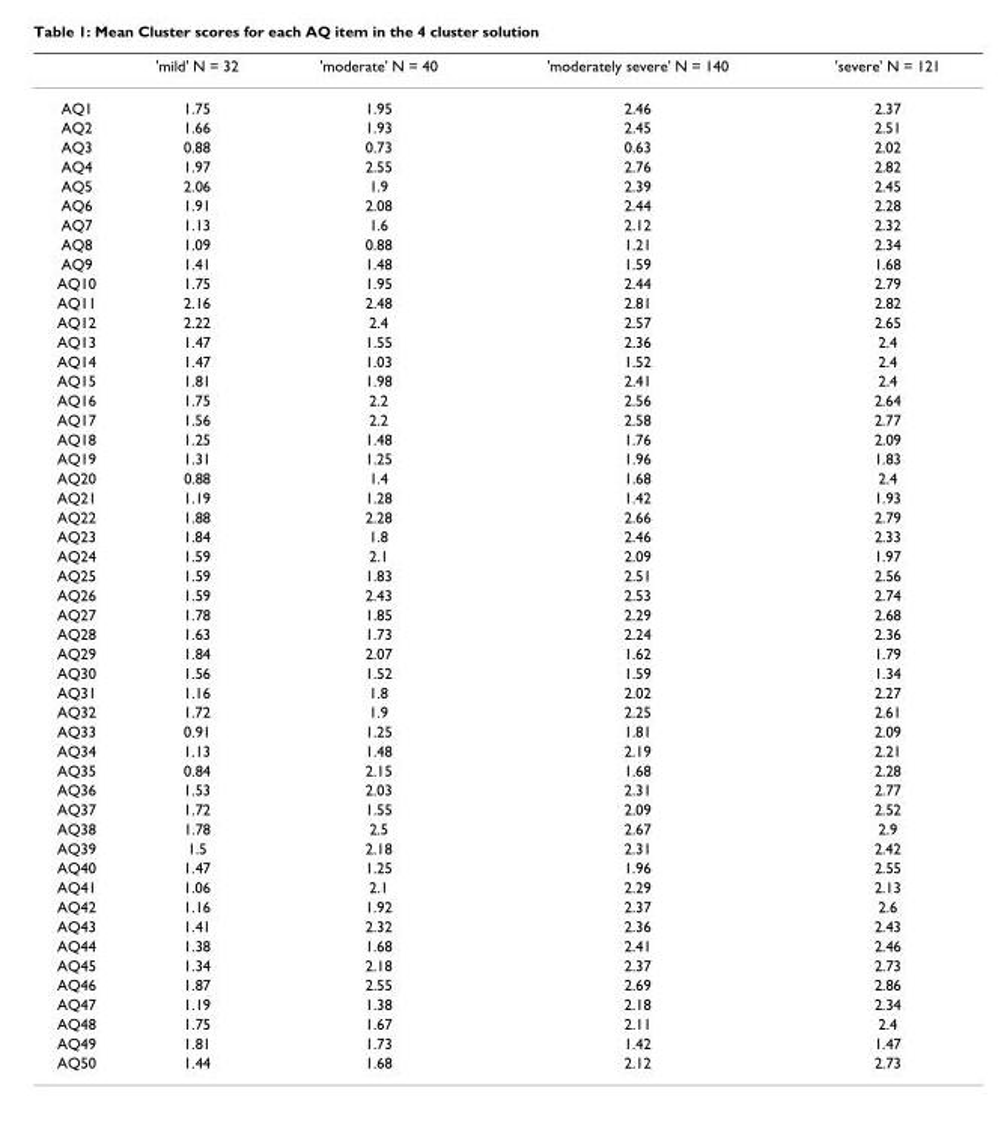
<table><thead><tr><td></td><td>&#x27;mild&#x27; N = 32</td><td>&#x27;moderate&#x27; N = 40</td><td>&#x27;moderately severe&#x27; N = 140</td><td>&#x27;severe&#x27; N = 121</td></tr></thead><tbody><tr><td>AQ1</td><td>1.75</td><td>1.95</td><td>2.46</td><td>2.37</td></tr><tr><td>AQ2</td><td>1.66</td><td>1.93</td><td>2.45</td><td>2.51</td></tr><tr><td>AQ3</td><td>0.88</td><td>0.73</td><td>0.63</td><td>2.02</td></tr><tr><td>AQ4</td><td>1.97</td><td>2.55</td><td>2.76</td><td>2.82</td></tr><tr><td>AQ5</td><td>2.06</td><td>1.9</td><td>2.39</td><td>2.45</td></tr><tr><td>AQ6</td><td>1.91</td><td>2.08</td><td>2.44</td><td>2.28</td></tr><tr><td>AQ7</td><td>1.13</td><td>1.6</td><td>2.12</td><td>2.32</td></tr><tr><td>AQ8</td><td>1.09</td><td>0.88</td><td>1.21</td><td>2.34</td></tr><tr><td>AQ9</td><td>1.41</td><td>1.48</td><td>1.59</td><td>1.68</td></tr><tr><td>AQ10</td><td>1.75</td><td>1.95</td><td>2.44</td><td>2.79</td></tr><tr><td>AQ11</td><td>2.16</td><td>2.48</td><td>2.81</td><td>2.82</td></tr><tr><td>AQ12</td><td>2.22</td><td>2.4</td><td>2.57</td><td>2.65</td></tr><tr><td>AQ13</td><td>1.47</td><td>1.55</td><td>2.36</td><td>2.4</td></tr><tr><td>AQ14</td><td>1.47</td><td>1.03</td><td>1.52</td><td>2.4</td></tr><tr><td>AQ15</td><td>1.81</td><td>1.98</td><td>2.41</td><td>2.4</td></tr><tr><td>AQ16</td><td>1.75</td><td>2.2</td><td>2.56</td><td>2.64</td></tr><tr><td>AQ17</td><td>1.56</td><td>2.2</td><td>2.58</td><td>2.77</td></tr><tr><td>AQ18</td><td>1.25</td><td>1.48</td><td>1.76</td><td>2.09</td></tr><tr><td>AQ19</td><td>1.31</td><td>1.25</td><td>1.96</td><td>1.83</td></tr><tr><td>AQ20</td><td>0.88</td><td>1.4</td><td>1.68</td><td>2.4</td></tr><tr><td>AQ21</td><td>1.19</td><td>1.28</td><td>1.42</td><td>1.93</td></tr><tr><td>AQ22</td><td>1.88</td><td>2.28</td><td>2.66</td><td>2.79</td></tr><tr><td>AQ23</td><td>1.84</td><td>1.8</td><td>2.46</td><td>2.33</td></tr><tr><td>AQ24</td><td>1.59</td><td>2.1</td><td>2.09</td><td>1.97</td></tr><tr><td>AQ25</td><td>1.59</td><td>1.83</td><td>2.51</td><td>2.56</td></tr><tr><td>AQ26</td><td>1.59</td><td>2.43</td><td>2.53</td><td>2.74</td></tr><tr><td>AQ27</td><td>1.78</td><td>1.85</td><td>2.29</td><td>2.68</td></tr><tr><td>AQ28</td><td>1.63</td><td>1.73</td><td>2.24</td><td>2.36</td></tr><tr><td>AQ29</td><td>1.84</td><td>2.07</td><td>1.62</td><td>1.79</td></tr><tr><td>AQ30</td><td>1.56</td><td>1.52</td><td>1.59</td><td>1.34</td></tr><tr><td>AQ31</td><td>1.16</td><td>1.8</td><td>2.02</td><td>2.27</td></tr><tr><td>AQ32</td><td>1.72</td><td>1.9</td><td>2.25</td><td>2.61</td></tr><tr><td>AQ33</td><td>0.91</td><td>1.25</td><td>1.81</td><td>2.09</td></tr><tr><td>AQ34</td><td>1.13</td><td>1.48</td><td>2.19</td><td>2.21</td></tr><tr><td>AQ35</td><td>0.84</td><td>2.15</td><td>1.68</td><td>2.28</td></tr><tr><td>AQ36</td><td>1.53</td><td>2.03</td><td>2.31</td><td>2.77</td></tr><tr><td>AQ37</td><td>1.72</td><td>1.55</td><td>2.09</td><td>2.52</td></tr><tr><td>AQ38</td><td>1.78</td><td>2.5</td><td>2.67</td><td>2.9</td></tr><tr><td>AQ39</td><td>1.5</td><td>2.18</td><td>2.31</td><td>2.42</td></tr><tr><td>AQ40</td><td>1.47</td><td>1.25</td><td>1.96</td><td>2.55</td></tr><tr><td>AQ41</td><td>1.06</td><td>2.1</td><td>2.29</td><td>2.13</td></tr><tr><td>AQ42</td><td>1.16</td><td>1.92</td><td>2.37</td><td>2.6</td></tr><tr><td>AQ43</td><td>1.41</td><td>2.32</td><td>2.36</td><td>2.43</td></tr><tr><td>AQ44</td><td>1.38</td><td>1.68</td><td>2.41</td><td>2.46</td></tr><tr><td>AQ45</td><td>1.34</td><td>2.18</td><td>2.37</td><td>2.73</td></tr><tr><td>AQ46</td><td>1.87</td><td>2.55</td><td>2.69</td><td>2.86</td></tr><tr><td>AQ47</td><td>1.19</td><td>1.38</td><td>2.18</td><td>2.34</td></tr><tr><td>AQ48</td><td>1.75</td><td>1.67</td><td>2.11</td><td>2.4</td></tr><tr><td>AQ49</td><td>1.81</td><td>1.73</td><td>1.42</td><td>1.47</td></tr><tr><td>AQ50</td><td>1.44</td><td>1.68</td><td>2.12</td><td>2.73</td></tr></tbody></table>